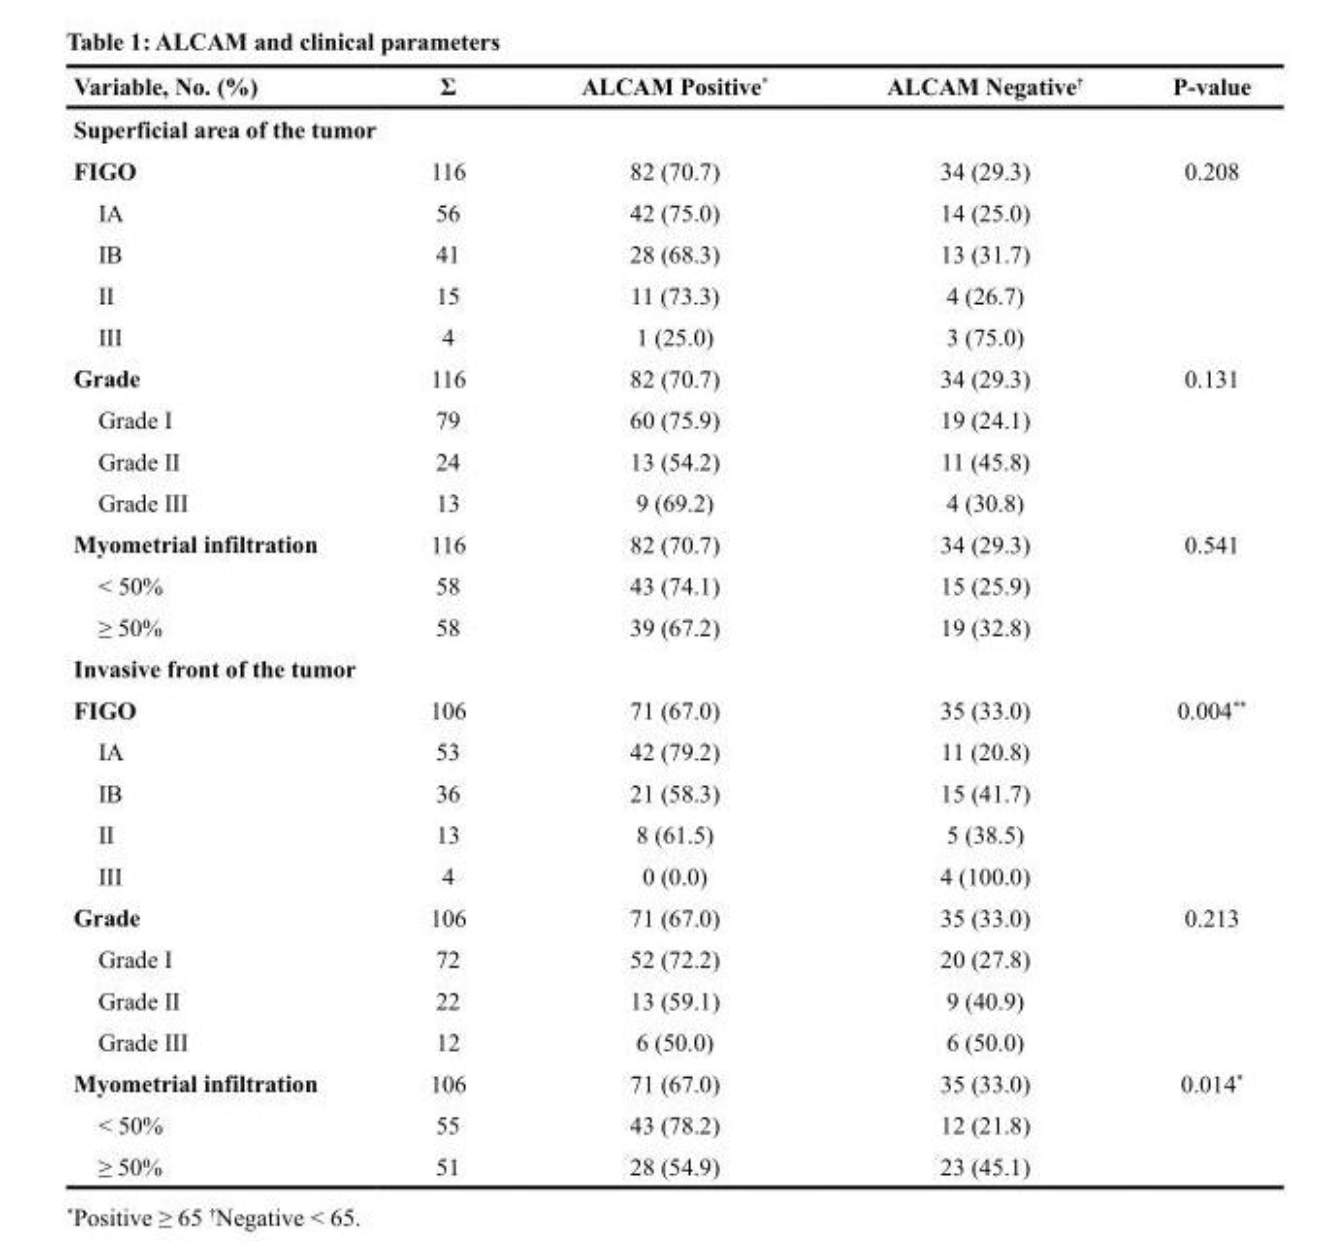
<table><thead><tr><td>Variable, No. (%)</td><td>Σ</td><td>ALCAM Positive*</td><td>ALCAM Negative<sup>†</sup></td><td>P-value</td></tr></thead><tbody><tr><td colspan="5">Superficial area of the tumor</td></tr><tr><td>FIGO</td><td>116</td><td>82 (70.7)</td><td>34 (29.3)</td><td>0.208</td></tr><tr><td>IA</td><td>56</td><td>42 (75.0)</td><td>14 (25.0)</td><td></td></tr><tr><td>IB</td><td>41</td><td>28 (68.3)</td><td>13 (31.7)</td><td></td></tr><tr><td>II</td><td>15</td><td>11 (73.3)</td><td>4 (26.7)</td><td></td></tr><tr><td>III</td><td>4</td><td>1 (25.0)</td><td>3 (75.0)</td><td></td></tr><tr><td>Grade</td><td>116</td><td>82 (70.7)</td><td>34 (29.3)</td><td>0.131</td></tr><tr><td>Grade I</td><td>79</td><td>60 (75.9)</td><td>19 (24.1)</td><td></td></tr><tr><td>Grade II</td><td>24</td><td>13 (54.2)</td><td>11 (45.8)</td><td></td></tr><tr><td>Grade III</td><td>13</td><td>9 (69.2)</td><td>4 (30.8)</td><td></td></tr><tr><td>Myometrial infiltration</td><td>116</td><td>82 (70.7)</td><td>34 (29.3)</td><td>0.541</td></tr><tr><td>&lt; 50%</td><td>58</td><td>43 (74.1)</td><td>15 (25.9)</td><td></td></tr><tr><td>≥ 50%</td><td>58</td><td>39 (67.2)</td><td>19 (32.8)</td><td></td></tr><tr><td colspan="5">Invasive front of the tumor</td></tr><tr><td>FIGO</td><td>106</td><td>71 (67.0)</td><td>35 (33.0)</td><td>0.004**</td></tr><tr><td>IA</td><td>53</td><td>42 (79.2)</td><td>11 (20.8)</td><td></td></tr><tr><td>IB</td><td>36</td><td>21 (58.3)</td><td>15 (41.7)</td><td></td></tr><tr><td>II</td><td>13</td><td>8 (61.5)</td><td>5 (38.5)</td><td></td></tr><tr><td>III</td><td>4</td><td>0 (0.0)</td><td>4 (100.0)</td><td></td></tr><tr><td>Grade</td><td>106</td><td>71 (67.0)</td><td>35 (33.0)</td><td>0.213</td></tr><tr><td>Grade I</td><td>72</td><td>52 (72.2)</td><td>20 (27.8)</td><td></td></tr><tr><td>Grade II</td><td>22</td><td>13 (59.1)</td><td>9 (40.9)</td><td></td></tr><tr><td>Grade III</td><td>12</td><td>6 (50.0)</td><td>6 (50.0)</td><td></td></tr><tr><td>Myometrial infiltration</td><td>106</td><td>71 (67.0)</td><td>35 (33.0)</td><td>0.014*</td></tr><tr><td>&lt; 50%</td><td>55</td><td>43 (78.2)</td><td>12 (21.8)</td><td></td></tr><tr><td>≥ 50%</td><td>51</td><td>28 (54.9)</td><td>23 (45.1)</td><td></td></tr></tbody></table>